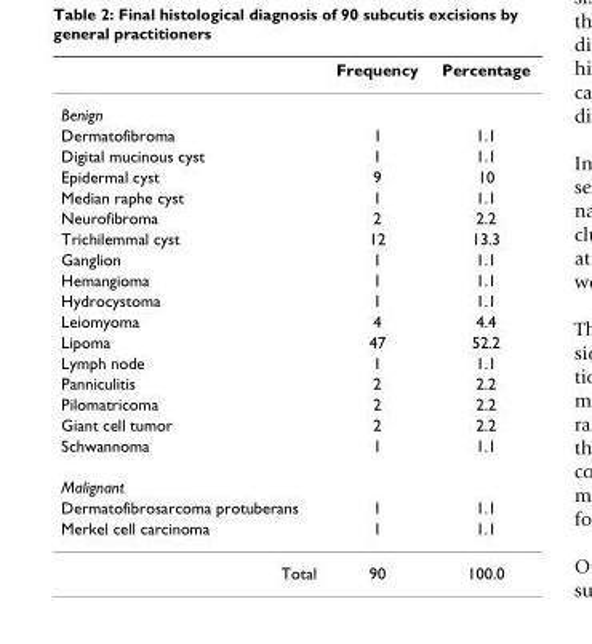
<table><thead><tr><td></td><td>Frequency</td><td>Percentage</td></tr></thead><tbody><tr><td colspan="3">Benign</td></tr><tr><td>Dermatofibroma</td><td>1</td><td>1.1</td></tr><tr><td>Digital mucinous cyst</td><td>1</td><td>1.1</td></tr><tr><td>Epidermal cyst</td><td>9</td><td>10</td></tr><tr><td>Median raphe cyst</td><td>1</td><td>1.1</td></tr><tr><td>Neurofibroma</td><td>2</td><td>2.2</td></tr><tr><td>Trichilemmal cyst</td><td>12</td><td>13.3</td></tr><tr><td>Ganglion</td><td>1</td><td>1.1</td></tr><tr><td>Hemangioma</td><td>1</td><td>1.1</td></tr><tr><td>Hydrocystoma</td><td>1</td><td>1.1</td></tr><tr><td>Leiomyoma</td><td>4</td><td>4.4</td></tr><tr><td>Lipoma</td><td>47</td><td>52.2</td></tr><tr><td>Lymph node</td><td>1</td><td>1.1</td></tr><tr><td>Panniculitis</td><td>2</td><td>2.2</td></tr><tr><td>Pilomatricoma</td><td>2</td><td>2.2</td></tr><tr><td>Giant cell tumor</td><td>2</td><td>2.2</td></tr><tr><td>Schwannoma</td><td>1</td><td>1.1</td></tr><tr><td colspan="3">Malignant</td></tr><tr><td>Dermatofibrosarcoma protuberans</td><td>1</td><td>1.1</td></tr><tr><td>Merkel cell carcinoma</td><td>1</td><td>1.1</td></tr><tr><td>Total</td><td>90</td><td>100.0</td></tr></tbody></table>